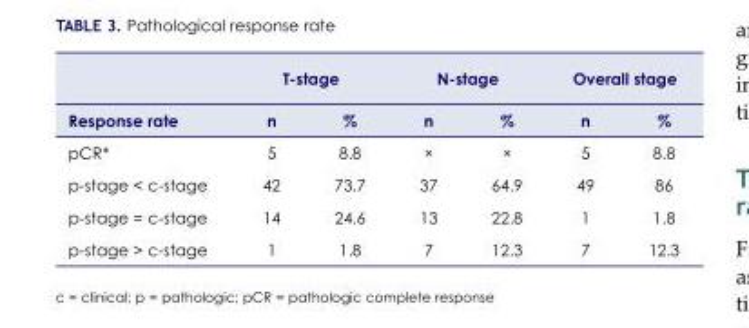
<table><thead><tr><td rowspan="2">Response rate</td><td colspan="2">T-stage</td><td colspan="2">N-stage</td><td colspan="2">Overall stage</td></tr><tr><td>n</td><td>%</td><td>n</td><td>%</td><td>n</td><td>%</td></tr></thead><tbody><tr><td>pCR*</td><td>5</td><td>8.8</td><td>×</td><td>×</td><td>5</td><td>8.8</td></tr><tr><td>p-stage &lt; c-stage</td><td>42</td><td>73.7</td><td>37</td><td>64.9</td><td>49</td><td>86</td></tr><tr><td>p-stage = c-stage</td><td>14</td><td>24.6</td><td>13</td><td>22.8</td><td>1</td><td>1.8</td></tr><tr><td>p-stage &gt; c-stage</td><td>1</td><td>1.8</td><td>7</td><td>12.3</td><td>7</td><td>12.3</td></tr></tbody></table>